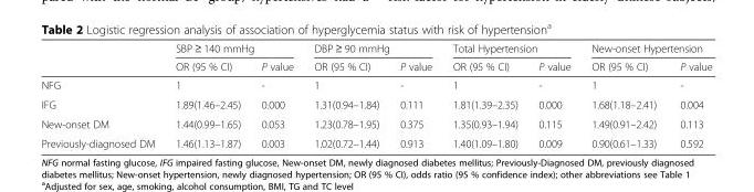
<table><thead><tr><td rowspan="2"></td><td colspan="2">SBP ≥ 140 mmHg</td><td colspan="2">DBP ≥ 90 mmHg</td><td colspan="2">Total Hypertension</td><td colspan="2">New-onset Hypertension</td></tr><tr><td>OR (95 % CI)</td><td>P value</td><td>OR (95 % CI)</td><td>P value</td><td>OR (95 % CI)</td><td>P value</td><td>OR (95 % CI)</td><td>P value</td></tr></thead><tbody><tr><td>NFG</td><td>1</td><td>-</td><td>1</td><td>-</td><td>1</td><td>-</td><td>1</td><td>-</td></tr><tr><td>IFG</td><td>1.89(1.46–2.45)</td><td>0.000</td><td>1.31(0.94–1.84)</td><td>0.111</td><td>1.81(1.39–2.35)</td><td>0.000</td><td>1.68(1.18–2.41)</td><td>0.004</td></tr><tr><td>New-onset DM</td><td>1.44(0.99–1.65)</td><td>0.053</td><td>1.23(0.78–1.95)</td><td>0.375</td><td>1.35(0.93–1.94)</td><td>0.115</td><td>1.49(0.91–2.42)</td><td>0.113</td></tr><tr><td>Previously-diagnosed DM</td><td>1.46(1.13–1.87)</td><td>0.003</td><td>1.02(0.72–1.44)</td><td>0.913</td><td>1.40(1.09–1.80)</td><td>0.009</td><td>0.90(0.61–1.33)</td><td>0.592</td></tr></tbody></table>